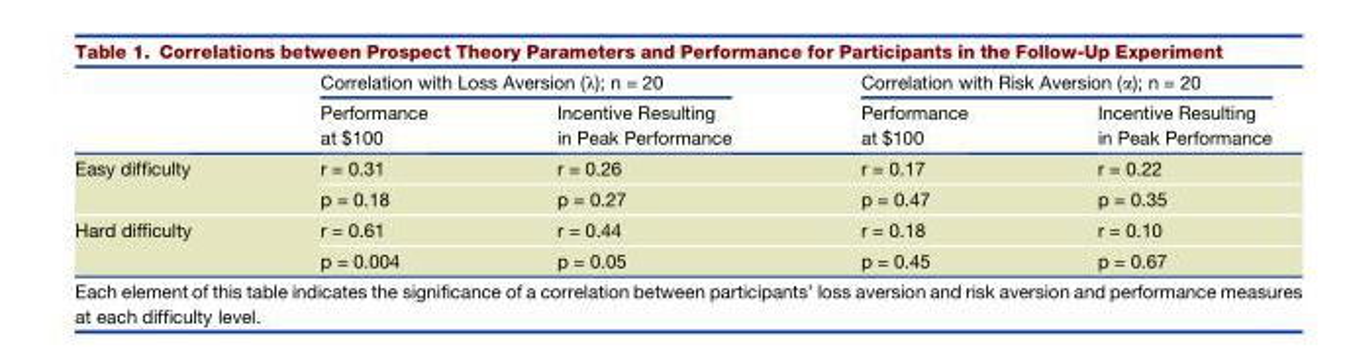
<table><thead><tr><td rowspan="2"></td><td colspan="2">Correlation with Loss Aversion (λ); n = 20</td><td colspan="2">Correlation with Risk Aversion (α); n = 20</td></tr><tr><td>Performance at $100</td><td>Incentive Resulting in Peak Performance</td><td>Performance at $100</td><td>Incentive Resulting in Peak Performance</td></tr></thead><tbody><tr><td rowspan="2">Easy difficulty</td><td>r = 0.31</td><td>r = 0.26</td><td>r = 0.17</td><td>r = 0.22</td></tr><tr><td>p = 0.18</td><td>p = 0.27</td><td>p = 0.47</td><td>p = 0.35</td></tr><tr><td rowspan="2">Hard difficulty</td><td>r = 0.61</td><td>r = 0.44</td><td>r = 0.18</td><td>r = 0.10</td></tr><tr><td>p = 0.004</td><td>p = 0.05</td><td>p = 0.45</td><td>p = 0.67</td></tr></tbody></table>